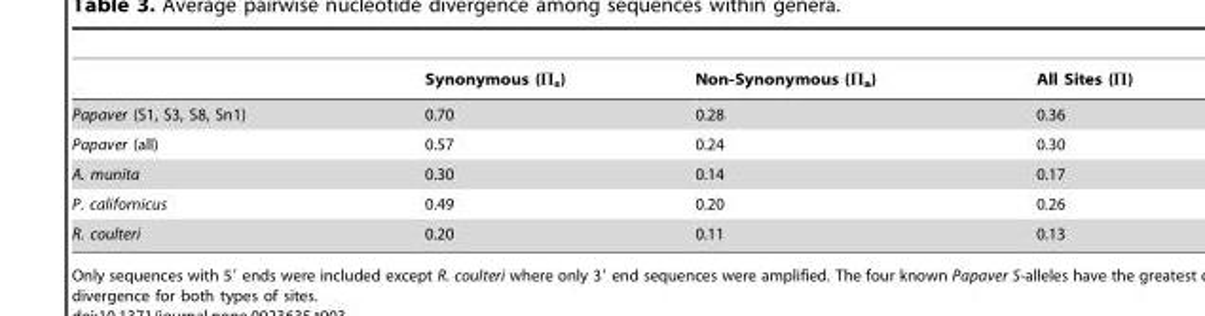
<table><thead><tr><td></td><td>Synonymous (Π<sub>s</sub>)</td><td>Non-Synonymous (Π<sub>a</sub>)</td><td>All Sites (Π)</td></tr></thead><tbody><tr><td>Papaver (S1, S3, S8, Sn1)</td><td>0.70</td><td>0.28</td><td>0.36</td></tr><tr><td>Papaver (all)</td><td>0.57</td><td>0.24</td><td>0.30</td></tr><tr><td>A. munita</td><td>0.30</td><td>0.14</td><td>0.17</td></tr><tr><td>P. californicus</td><td>0.49</td><td>0.20</td><td>0.26</td></tr><tr><td>R. coulteri</td><td>0.20</td><td>0.11</td><td>0.13</td></tr></tbody></table>